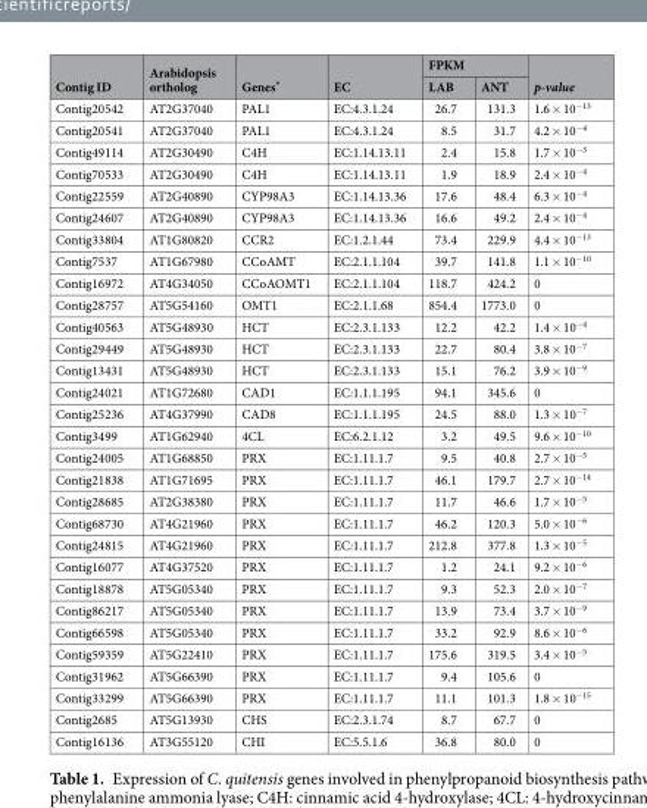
<table><thead><tr><td rowspan="2">Contig ID</td><td rowspan="2">Arabidopsis ortholog</td><td rowspan="2">Genes*</td><td rowspan="2">EC</td><td colspan="2">FPKM</td><td rowspan="2">p-value</td></tr><tr><td>LAB</td><td>ANT</td></tr></thead><tbody><tr><td>Contig20542</td><td>AT2G37040</td><td>PAL1</td><td>EC:4.3.1.24</td><td>26.7</td><td>131.3</td><td>1.6 × 10<sup>−13</sup></td></tr><tr><td>Contig20541</td><td>AT2G37040</td><td>PAL1</td><td>EC:4.3.1.24</td><td>8.5</td><td>31.7</td><td>4.2 × 10<sup>−4</sup></td></tr><tr><td>Contig49114</td><td>AT2G30490</td><td>C4H</td><td>EC:1.14.13.11</td><td>2.4</td><td>15.8</td><td>1.7 × 10<sup>−3</sup></td></tr><tr><td>Contig70533</td><td>AT2G30490</td><td>C4H</td><td>EC:1.14.13.11</td><td>1.9</td><td>18.9</td><td>2.4 × 10<sup>−4</sup></td></tr><tr><td>Contig22559</td><td>AT2G40890</td><td>CYP98A3</td><td>EC:1.14.13.36</td><td>17.6</td><td>48.4</td><td>6.3 × 10<sup>−4</sup></td></tr><tr><td>Contig24607</td><td>AT2G40890</td><td>CYP98A3</td><td>EC:1.14.13.36</td><td>16.6</td><td>49.2</td><td>2.4 × 10<sup>−4</sup></td></tr><tr><td>Contig33804</td><td>AT1G80820</td><td>CCR2</td><td>EC:1.2.1.44</td><td>73.4</td><td>229.9</td><td>4.4 × 10<sup>−13</sup></td></tr><tr><td>Contig7537</td><td>AT1G67980</td><td>CCoAMT</td><td>EC:2.1.1.104</td><td>39.7</td><td>141.8</td><td>1.1 × 10<sup>−10</sup></td></tr><tr><td>Contig16972</td><td>AT4G34050</td><td>CCoAOMT1</td><td>EC:2.1.1.104</td><td>118.7</td><td>424.2</td><td>0</td></tr><tr><td>Contig28757</td><td>AT5G54160</td><td>OMT1</td><td>EC:2.1.1.68</td><td>854.4</td><td>1773.0</td><td>0</td></tr><tr><td>Contig40563</td><td>AT5G48930</td><td>HCT</td><td>EC:2.3.1.133</td><td>12.2</td><td>42.2</td><td>1.4 × 10<sup>−4</sup></td></tr><tr><td>Contig29449</td><td>AT5G48930</td><td>HCT</td><td>EC:2.3.1.133</td><td>22.7</td><td>80.4</td><td>3.8 × 10<sup>−7</sup></td></tr><tr><td>Contig13431</td><td>AT5G48930</td><td>HCT</td><td>EC:2.3.1.133</td><td>15.1</td><td>76.2</td><td>3.9 × 10<sup>−9</sup></td></tr><tr><td>Contig24021</td><td>AT1G72680</td><td>CAD1</td><td>EC:1.1.1.195</td><td>94.1</td><td>345.6</td><td>0</td></tr><tr><td>Contig25236</td><td>AT4G37990</td><td>CAD8</td><td>EC:1.1.1.195</td><td>24.5</td><td>88.0</td><td>1.3 × 10<sup>−7</sup></td></tr><tr><td>Contig3499</td><td>AT1G62940</td><td>4CL</td><td>EC:6.2.1.12</td><td>3.2</td><td>49.5</td><td>9.6 × 10<sup>−10</sup></td></tr><tr><td>Contig24005</td><td>AT1G68850</td><td>PRX</td><td>EC:1.11.1.7</td><td>9.5</td><td>40.8</td><td>2.7 × 10<sup>−5</sup></td></tr><tr><td>Contig21838</td><td>AT1G71695</td><td>PRX</td><td>EC:1.11.1.7</td><td>46.1</td><td>179.7</td><td>2.7 × 10<sup>−14</sup></td></tr><tr><td>Contig28685</td><td>AT2G38380</td><td>PRX</td><td>EC:1.11.1.7</td><td>11.7</td><td>46.6</td><td>1.7 × 10<sup>−5</sup></td></tr><tr><td>Contig68730</td><td>AT4G21960</td><td>PRX</td><td>EC:1.11.1.7</td><td>46.2</td><td>120.3</td><td>5.0 × 10<sup>−6</sup></td></tr><tr><td>Contig24815</td><td>AT4G21960</td><td>PRX</td><td>EC:1.11.1.7</td><td>212.8</td><td>377.8</td><td>1.3 × 10<sup>−5</sup></td></tr><tr><td>Contig16077</td><td>AT4G37520</td><td>PRX</td><td>EC:1.11.1.7</td><td>1.2</td><td>24.1</td><td>9.2 × 10<sup>−6</sup></td></tr><tr><td>Contig18878</td><td>AT5G05340</td><td>PRX</td><td>EC:1.11.1.7</td><td>9.3</td><td>52.3</td><td>2.0 × 10<sup>−7</sup></td></tr><tr><td>Contig86217</td><td>AT5G05340</td><td>PRX</td><td>EC:1.11.1.7</td><td>13.9</td><td>73.4</td><td>3.7 × 10<sup>−9</sup></td></tr><tr><td>Contig66598</td><td>AT5G05340</td><td>PRX</td><td>EC:1.11.1.7</td><td>33.2</td><td>92.9</td><td>8.6 × 10<sup>−6</sup></td></tr><tr><td>Contig59359</td><td>AT5G22410</td><td>PRX</td><td>EC:1.11.1.7</td><td>175.6</td><td>319.5</td><td>3.4 × 10<sup>−5</sup></td></tr><tr><td>Contig31962</td><td>AT5G66390</td><td>PRX</td><td>EC:1.11.1.7</td><td>9.4</td><td>105.6</td><td>0</td></tr><tr><td>Contig33299</td><td>AT5G66390</td><td>PRX</td><td>EC:1.11.1.7</td><td>11.1</td><td>101.3</td><td>1.8 × 10<sup>−15</sup></td></tr><tr><td>Contig2685</td><td>AT5G13930</td><td>CHS</td><td>EC:2.3.1.74</td><td>8.7</td><td>67.7</td><td>0</td></tr><tr><td>Contig16136</td><td>AT3G55120</td><td>CHI</td><td>EC:5.5.1.6</td><td>36.8</td><td>80.0</td><td>0</td></tr></tbody></table>